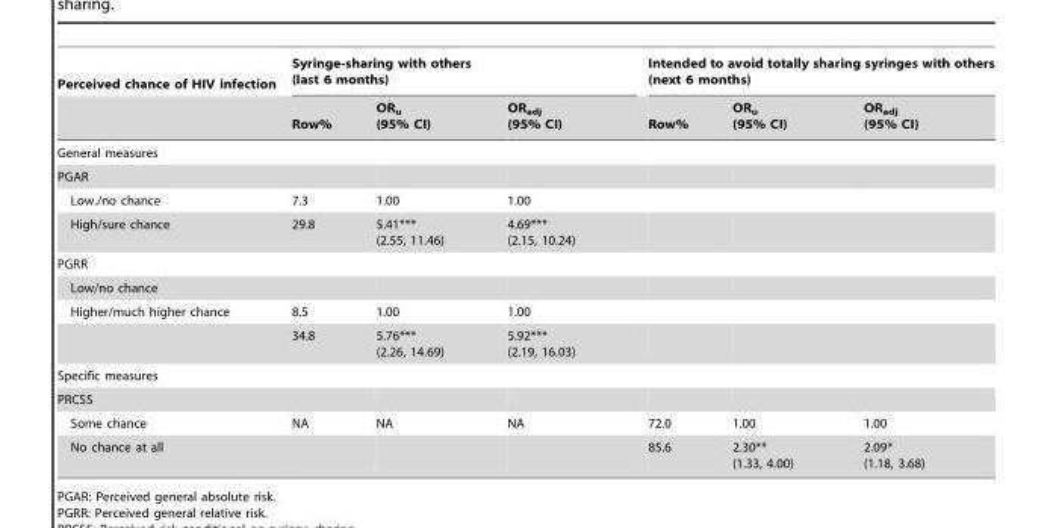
<table><thead><tr><td rowspan="2">Perceived chance of HIV infection</td><td colspan="3">Syringe-sharing with others (last 6 months)</td><td colspan="3">Intended to avoid totally sharing syringes with others (next 6 months)</td></tr><tr><td>Row%</td><td>OR<sub>u</sub> (95% CI)</td><td>OR<sub>adj</sub> (95% CI)</td><td>Row%</td><td>OR<sub>u</sub> (95% CI)</td><td>OR<sub>adj</sub> (95% CI)</td></tr></thead><tbody><tr><td colspan="7">General measures</td></tr><tr><td colspan="7">PGAR</td></tr><tr><td>Low./no chance</td><td>7.3</td><td>1.00</td><td>1.00</td><td></td><td></td><td></td></tr><tr><td>High/sure chance</td><td>29.8</td><td>5.41*** (2.55, 11.46)</td><td>4.69*** (2.15, 10.24)</td><td></td><td></td><td></td></tr><tr><td colspan="7">PGRR</td></tr><tr><td colspan="7">Low/no chance</td></tr><tr><td rowspan="2">Higher/much higher chance</td><td>8.5</td><td>1.00</td><td>1.00</td><td></td><td></td><td></td></tr><tr><td>34.8</td><td>5.76*** (2.26, 14.69)</td><td>5.92*** (2.19, 16.03)</td><td></td><td></td><td></td></tr><tr><td colspan="7">Specific measures</td></tr><tr><td colspan="7">PRCSS</td></tr><tr><td>Some chance</td><td>NA</td><td>NA</td><td>NA</td><td>72.0</td><td>1.00</td><td>1.00</td></tr><tr><td>No chance at all</td><td></td><td></td><td></td><td>85.6</td><td>2.30** (1.33, 4.00)</td><td>2.09* (1.18, 3.68)</td></tr></tbody></table>